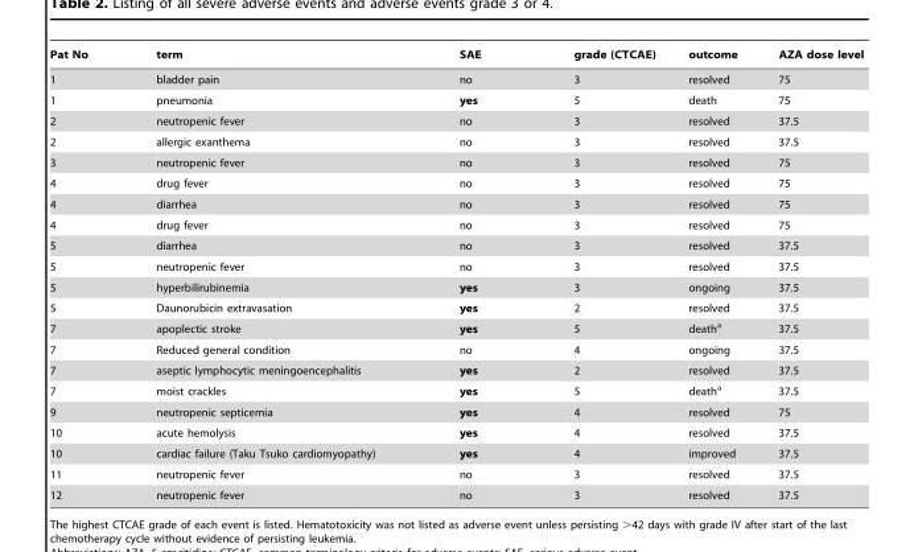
<table><thead><tr><td>Pat No</td><td>term</td><td>SAE</td><td>grade (CTCAE)</td><td>outcome</td><td>AZA dose level</td></tr></thead><tbody><tr><td>1</td><td>bladder pain</td><td>no</td><td>3</td><td>resolved</td><td>75</td></tr><tr><td>1</td><td>pneumonia</td><td>yes</td><td>5</td><td>death</td><td>75</td></tr><tr><td>2</td><td>neutropenic fever</td><td>no</td><td>3</td><td>resolved</td><td>37.5</td></tr><tr><td>2</td><td>allergic exanthema</td><td>no</td><td>3</td><td>resolved</td><td>37.5</td></tr><tr><td>3</td><td>neutropenic fever</td><td>no</td><td>3</td><td>resolved</td><td>75</td></tr><tr><td>4</td><td>drug fever</td><td>no</td><td>3</td><td>resolved</td><td>75</td></tr><tr><td>4</td><td>diarrhea</td><td>no</td><td>3</td><td>resolved</td><td>75</td></tr><tr><td>4</td><td>drug fever</td><td>no</td><td>3</td><td>resolved</td><td>75</td></tr><tr><td>5</td><td>diarrhea</td><td>no</td><td>3</td><td>resolved</td><td>37.5</td></tr><tr><td>5</td><td>neutropenic fever</td><td>no</td><td>3</td><td>resolved</td><td>37.5</td></tr><tr><td>5</td><td>hyperbilirubinemia</td><td>yes</td><td>3</td><td>ongoing</td><td>37.5</td></tr><tr><td>5</td><td>Daunorubicin extravasation</td><td>yes</td><td>2</td><td>resolved</td><td>37.5</td></tr><tr><td>7</td><td>apoplectic stroke</td><td>yes</td><td>5</td><td>death<sup>a</sup></td><td>37.5</td></tr><tr><td>7</td><td>Reduced general condition</td><td>no</td><td>4</td><td>ongoing</td><td>37.5</td></tr><tr><td>7</td><td>aseptic lymphocytic meningoencephalitis</td><td>yes</td><td>2</td><td>resolved</td><td>37.5</td></tr><tr><td>7</td><td>moist crackles</td><td>yes</td><td>5</td><td>death<sup>a</sup></td><td>37.5</td></tr><tr><td>9</td><td>neutropenic septicemia</td><td>yes</td><td>4</td><td>resolved</td><td>75</td></tr><tr><td>10</td><td>acute hemolysis</td><td>yes</td><td>4</td><td>resolved</td><td>37.5</td></tr><tr><td>10</td><td>cardiac failure (Taku Tsuko cardiomyopathy)</td><td>yes</td><td>4</td><td>improved</td><td>37.5</td></tr><tr><td>11</td><td>neutropenic fever</td><td>no</td><td>3</td><td>resolved</td><td>37.5</td></tr><tr><td>12</td><td>neutropenic fever</td><td>no</td><td>3</td><td>resolved</td><td>37.5</td></tr></tbody></table>